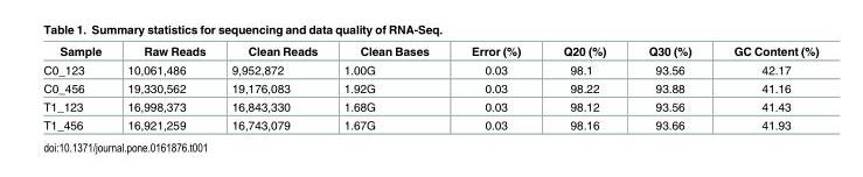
<table><thead><tr><td>Sample</td><td>Raw Reads</td><td>Clean Reads</td><td>Clean Bases</td><td>Error (%)</td><td>Q20 (%)</td><td>Q30 (%)</td><td>GC Content (%)</td></tr></thead><tbody><tr><td>C0_123</td><td>10,061,486</td><td>9,952,872</td><td>1.00G</td><td>0.03</td><td>98.1</td><td>93.56</td><td>42.17</td></tr><tr><td>C0_456</td><td>19,330,562</td><td>19,176,083</td><td>1.92G</td><td>0.03</td><td>98.22</td><td>93.88</td><td>41.16</td></tr><tr><td>T1_123</td><td>16,998,373</td><td>16,843,330</td><td>1.68G</td><td>0.03</td><td>98.12</td><td>93.56</td><td>41.43</td></tr><tr><td>T1_456</td><td>16,921,259</td><td>16,743,079</td><td>1.67G</td><td>0.03</td><td>98.16</td><td>93.66</td><td>41.93</td></tr></tbody></table>